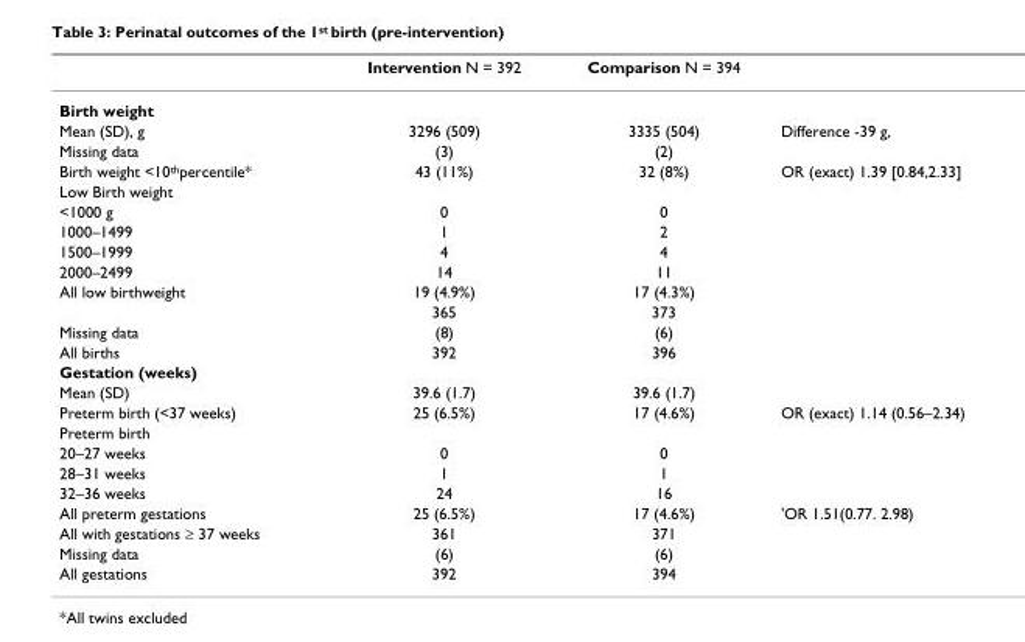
<table><thead><tr><td></td><td>Intervention N = 392</td><td>Comparison N = 394</td><td></td></tr></thead><tbody><tr><td colspan="4">Birth weight</td></tr><tr><td>Mean (SD), g</td><td>3296 (509)</td><td>3335 (504)</td><td>Difference -39 g,</td></tr><tr><td>Missing data</td><td>(3)</td><td>(2)</td><td></td></tr><tr><td>Birth weight &lt;10thpercentile*</td><td>43 (11%)</td><td>32 (8%)</td><td>OR (exact) 1.39 [0.84,2.33]</td></tr><tr><td colspan="4">Low Birth weight</td></tr><tr><td>&lt;1000 g</td><td>0</td><td>0</td><td></td></tr><tr><td>1000–1499</td><td>1</td><td>2</td><td></td></tr><tr><td>1500–1999</td><td>4</td><td>4</td><td></td></tr><tr><td>2000–2499</td><td>14</td><td>11</td><td></td></tr><tr><td rowspan="2">All low birthweight</td><td>19 (4.9%)</td><td>17 (4.3%)</td><td></td></tr><tr><td>365</td><td>373</td><td></td></tr><tr><td>Missing data</td><td>(8)</td><td>(6)</td><td></td></tr><tr><td>All births</td><td>392</td><td>396</td><td></td></tr><tr><td colspan="4">Gestation (weeks)</td></tr><tr><td>Mean (SD)</td><td>39.6 (1.7)</td><td>39.6 (1.7)</td><td></td></tr><tr><td>Preterm birth (&lt;37 weeks)</td><td>25 (6.5%)</td><td>17 (4.6%)</td><td>OR (exact) 1.14 (0.56–2.34)</td></tr><tr><td colspan="4">Preterm birth</td></tr><tr><td>20–27 weeks</td><td>0</td><td>0</td><td></td></tr><tr><td>28–31 weeks</td><td>1</td><td>1</td><td></td></tr><tr><td>32–36 weeks</td><td>24</td><td>16</td><td></td></tr><tr><td>All preterm gestations</td><td>25 (6.5%)</td><td>17 (4.6%)</td><td>&#x27;OR 1.51(0.77. 2.98)</td></tr><tr><td>All with gestations ≥ 37 weeks</td><td>361</td><td>371</td><td></td></tr><tr><td>Missing data</td><td>(6)</td><td>(6)</td><td></td></tr><tr><td>All gestations</td><td>392</td><td>394</td><td></td></tr></tbody></table>